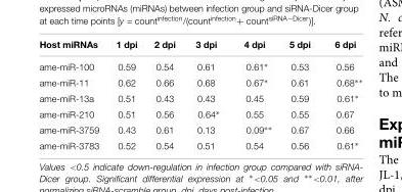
<table><thead><tr><td>Host miRNAs</td><td>1 dpi</td><td>2 dpi</td><td>3 dpi</td><td>4 dpi</td><td>5 dpi</td><td>6 dpi</td></tr></thead><tbody><tr><td>ame-miR-100</td><td>0.59</td><td>0.54</td><td>0.61</td><td>0.61∗</td><td>0.53</td><td>0.56</td></tr><tr><td>ame-miR-11</td><td>0.62</td><td>0.66</td><td>0.68</td><td>0.67∗</td><td>0.61</td><td>0.68∗∗</td></tr><tr><td>ame-miR-13a</td><td>0.51</td><td>0.43</td><td>0.43</td><td>0.45</td><td>0.59</td><td>0.61∗</td></tr><tr><td>ame-miR-210</td><td>0.51</td><td>0.56</td><td>0.64∗</td><td>0.55</td><td>0.55</td><td>0.67</td></tr><tr><td>ame-miR-3759</td><td>0.43</td><td>0.61</td><td>0.13</td><td>0.09∗∗</td><td>0.67</td><td>0.66</td></tr><tr><td>ame-miR-3783</td><td>0.52</td><td>0.54</td><td>0.51</td><td>0.54</td><td>0.56</td><td>0.61∗</td></tr></tbody></table>